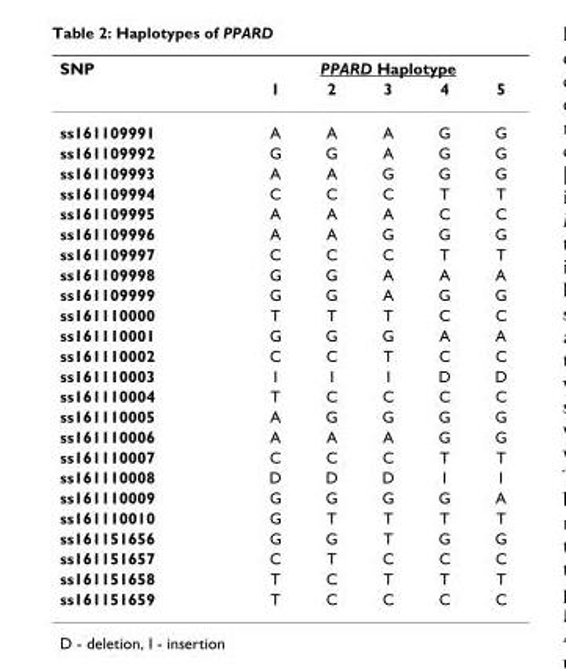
<table><thead><tr><td rowspan="2">SNP</td><td colspan="5">PPARD Haplotype</td></tr><tr><td>1</td><td>2</td><td>3</td><td>4</td><td>5</td></tr></thead><tbody><tr><td>ss161109991</td><td>A</td><td>A</td><td>A</td><td>G</td><td>G</td></tr><tr><td>ss161109992</td><td>G</td><td>G</td><td>A</td><td>G</td><td>G</td></tr><tr><td>ss161109993</td><td>A</td><td>A</td><td>G</td><td>G</td><td>G</td></tr><tr><td>ss161109994</td><td>C</td><td>C</td><td>C</td><td>T</td><td>T</td></tr><tr><td>ss161109995</td><td>A</td><td>A</td><td>A</td><td>C</td><td>C</td></tr><tr><td>ss161109996</td><td>A</td><td>A</td><td>G</td><td>G</td><td>G</td></tr><tr><td>ss161109997</td><td>C</td><td>C</td><td>C</td><td>T</td><td>T</td></tr><tr><td>ss161109998</td><td>G</td><td>G</td><td>A</td><td>A</td><td>A</td></tr><tr><td>ss161109999</td><td>G</td><td>G</td><td>A</td><td>G</td><td>G</td></tr><tr><td>ss161110000</td><td>T</td><td>T</td><td>T</td><td>C</td><td>C</td></tr><tr><td>ss161110001</td><td>G</td><td>G</td><td>G</td><td>A</td><td>A</td></tr><tr><td>ss161110002</td><td>C</td><td>C</td><td>T</td><td>C</td><td>C</td></tr><tr><td>ss161110003</td><td>I</td><td>I</td><td>I</td><td>D</td><td>D</td></tr><tr><td>ss161110004</td><td>T</td><td>C</td><td>C</td><td>C</td><td>C</td></tr><tr><td>ss161110005</td><td>A</td><td>G</td><td>G</td><td>G</td><td>G</td></tr><tr><td>ss161110006</td><td>A</td><td>A</td><td>A</td><td>G</td><td>G</td></tr><tr><td>ss161110007</td><td>C</td><td>C</td><td>C</td><td>T</td><td>T</td></tr><tr><td>ss161110008</td><td>D</td><td>D</td><td>D</td><td>I</td><td>I</td></tr><tr><td>ss161110009</td><td>G</td><td>G</td><td>G</td><td>G</td><td>A</td></tr><tr><td>ss161110010</td><td>G</td><td>T</td><td>T</td><td>T</td><td>T</td></tr><tr><td>ss161151656</td><td>G</td><td>G</td><td>T</td><td>G</td><td>G</td></tr><tr><td>ss161151657</td><td>C</td><td>T</td><td>C</td><td>C</td><td>C</td></tr><tr><td>ss161151658</td><td>T</td><td>C</td><td>T</td><td>T</td><td>T</td></tr><tr><td>ss161151659</td><td>T</td><td>C</td><td>C</td><td>C</td><td>C</td></tr></tbody></table>